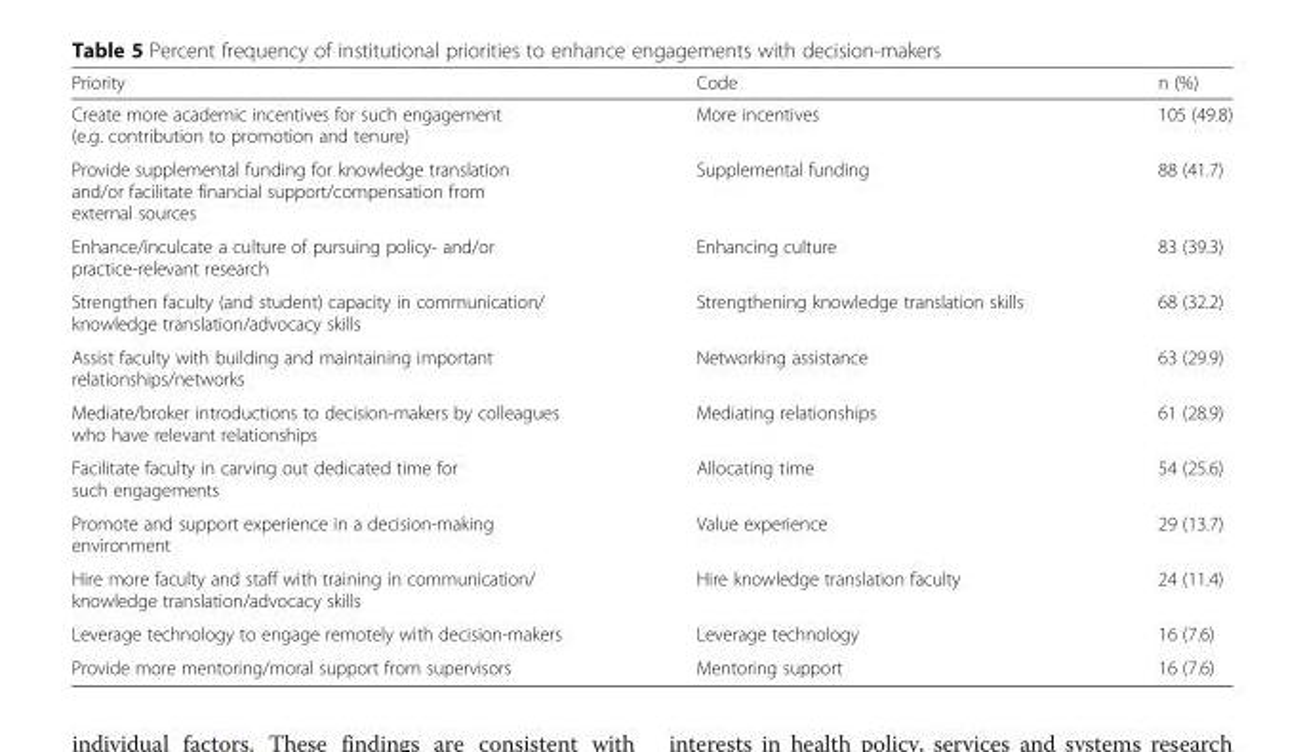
<table><thead><tr><td>Priority</td><td>Code</td><td>n (%)</td></tr></thead><tbody><tr><td>Create more academic incentives for such engagement (e.g. contribution to promotion and tenure)</td><td>More incentives</td><td>105 (49.8)</td></tr><tr><td>Provide supplemental funding for knowledge translation and/or facilitate financial support/compensation from external sources</td><td>Supplemental funding</td><td>88 (41.7)</td></tr><tr><td>Enhance/inculcate a culture of pursuing policy- and/or practice-relevant research</td><td>Enhancing culture</td><td>83 (39.3)</td></tr><tr><td>Strengthen faculty (and student) capacity in communication/ knowledge translation/advocacy skills</td><td>Strengthening knowledge translation skills</td><td>68 (32.2)</td></tr><tr><td>Assist faculty with building and maintaining important relationships/networks</td><td>Networking assistance</td><td>63 (29.9)</td></tr><tr><td>Mediate/broker introductions to decision-makers by colleagues who have relevant relationships</td><td>Mediating relationships</td><td>61 (28.9)</td></tr><tr><td>Facilitate faculty in carving out dedicated time for such engagements</td><td>Allocating time</td><td>54 (25.6)</td></tr><tr><td>Promote and support experience in a decision-making environment</td><td>Value experience</td><td>29 (13.7)</td></tr><tr><td>Hire more faculty and staff with training in communication/ knowledge translation/advocacy skills</td><td>Hire knowledge translation faculty</td><td>24 (11.4)</td></tr><tr><td>Leverage technology to engage remotely with decision-makers</td><td>Leverage technology</td><td>16 (7.6)</td></tr><tr><td>Provide more mentoring/moral support from supervisors</td><td>Mentoring support</td><td>16 (7.6)</td></tr></tbody></table>